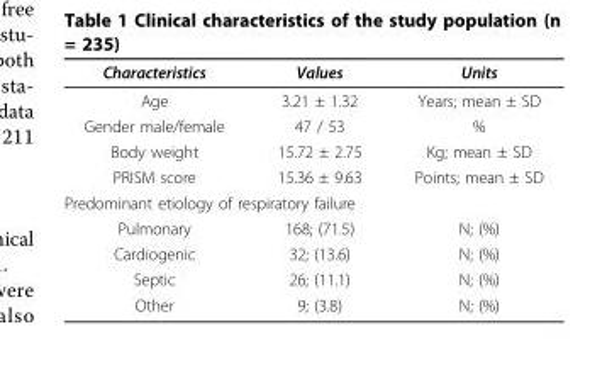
<table><thead><tr><td>Characteristics</td><td>Values</td><td>Units</td></tr></thead><tbody><tr><td>Age</td><td>3.21 ± 1.32</td><td>Years; mean ± SD</td></tr><tr><td>Gender male/female</td><td>47 / 53</td><td>%</td></tr><tr><td>Body weight</td><td>15.72 ± 2.75</td><td>Kg; mean ± SD</td></tr><tr><td>PRISM score</td><td>15.36 ± 9.63</td><td>Points; mean ± SD</td></tr><tr><td colspan="3">Predominant etiology of respiratory failure</td></tr><tr><td>Pulmonary</td><td>168; (71.5)</td><td>N; (%)</td></tr><tr><td>Cardiogenic</td><td>32; (13.6)</td><td>N; (%)</td></tr><tr><td>Septic</td><td>26; (11.1)</td><td>N; (%)</td></tr><tr><td>Other</td><td>9; (3.8)</td><td>N; (%)</td></tr></tbody></table>